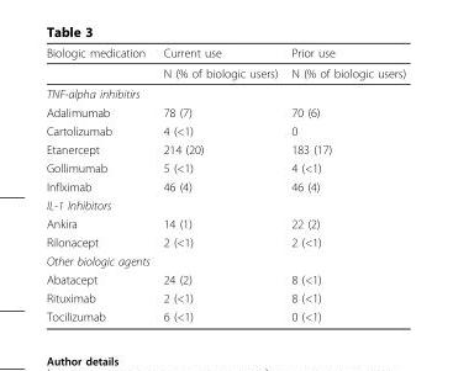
<table><thead><tr><td>Biologic medication</td><td>Current use</td><td>Prior use</td></tr></thead><tbody><tr><td></td><td>N (% of biologic users)</td><td>N (% of biologic users)</td></tr><tr><td colspan="3">TNF-alpha inhibitirs</td></tr><tr><td>Adalimumab</td><td>78 (7)</td><td>70 (6)</td></tr><tr><td>Cartolizumab</td><td>4 (&lt;1)</td><td>0</td></tr><tr><td>Etanercept</td><td>214 (20)</td><td>183 (17)</td></tr><tr><td>Gollimumab</td><td>5 (&lt;1)</td><td>4 (&lt;1)</td></tr><tr><td>Inflximab</td><td>46 (4)</td><td>46 (4)</td></tr><tr><td colspan="3">IL-1 Inhibitors</td></tr><tr><td>Ankira</td><td>14 (1)</td><td>22 (2)</td></tr><tr><td>Rilonacept</td><td>2 (&lt;1)</td><td>2 (&lt;1)</td></tr><tr><td colspan="3">Other biologic agents</td></tr><tr><td>Abatacept</td><td>24 (2)</td><td>8 (&lt;1)</td></tr><tr><td>Rituximab</td><td>2 (&lt;1)</td><td>8 (&lt;1)</td></tr><tr><td>Tocilizumab</td><td>6 (&lt;1)</td><td>0 (&lt;1)</td></tr></tbody></table>